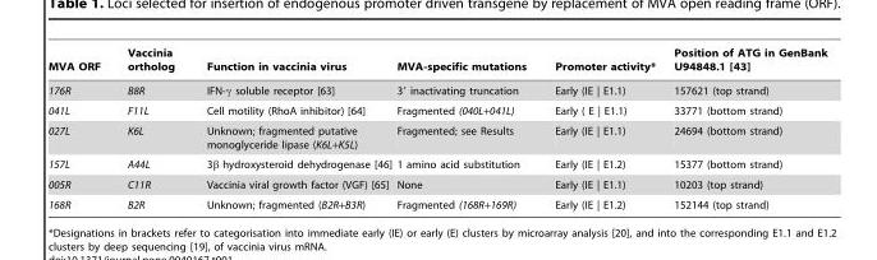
<table><thead><tr><td>MVA ORF</td><td>Vaccinia ortholog</td><td>Function in vaccinia virus</td><td>MVA-specific mutations</td><td>Promoter activity*</td><td>Position of ATG in GenBank U94848.1 [43]</td></tr></thead><tbody><tr><td>176R</td><td>B8R</td><td>IFN-γ soluble receptor [63]</td><td>3′ inactivating truncation</td><td>Early (IE | E1.1)</td><td>157621 (top strand)</td></tr><tr><td>041L</td><td>F11L</td><td>Cell motility (RhoA inhibitor) [64]</td><td>Fragmented (040L+041L)</td><td>Early ( E | E1.1)</td><td>33771 (bottom strand)</td></tr><tr><td>027L</td><td>K6L</td><td>Unknown; fragmented putative monoglyceride lipase (K6L+K5L)</td><td>Fragmented; see Results</td><td>Early (IE | E1.1)</td><td>24694 (bottom strand)</td></tr><tr><td>157L</td><td>A44L</td><td>3β hydroxysteroid dehydrogenase [46]</td><td>1 amino acid substitution</td><td>Early (IE | E1.2)</td><td>15377 (bottom strand)</td></tr><tr><td>005R</td><td>C11R</td><td>Vaccinia viral growth factor (VGF) [65]</td><td>None</td><td>Early (IE | E1.1)</td><td>10203 (top strand)</td></tr><tr><td>168R</td><td>B2R</td><td>Unknown; fragmented (B2R+B3R)</td><td>Fragmented (168R+169R)</td><td>Early (IE | E1.2)</td><td>152144 (top strand)</td></tr></tbody></table>